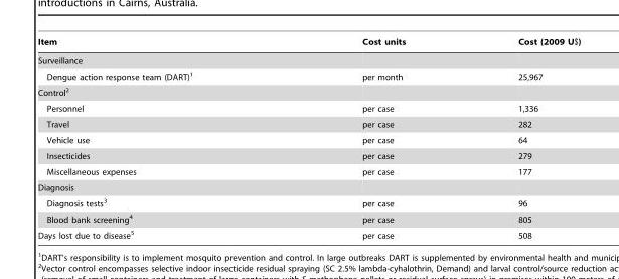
<table><thead><tr><td>Item</td><td>Cost units</td><td>Cost (2009 U$)</td></tr></thead><tbody><tr><td colspan="3">Surveillance</td></tr><tr><td>Dengue action response team (DART)<sup>1</sup></td><td>per month</td><td>25,967</td></tr><tr><td colspan="3">Control<sup>2</sup></td></tr><tr><td>Personnel</td><td>per case</td><td>1,336</td></tr><tr><td>Travel</td><td>per case</td><td>282</td></tr><tr><td>Vehicle use</td><td>per case</td><td>64</td></tr><tr><td>Insecticides</td><td>per case</td><td>279</td></tr><tr><td>Miscellaneous expenses</td><td>per case</td><td>177</td></tr><tr><td colspan="3">Diagnosis</td></tr><tr><td>Diagnosis tests<sup>3</sup></td><td>per case</td><td>96</td></tr><tr><td>Blood bank screening<sup>4</sup></td><td>per case</td><td>805</td></tr><tr><td>Days lost due to disease<sup>5</sup></td><td>per case</td><td>508</td></tr></tbody></table>